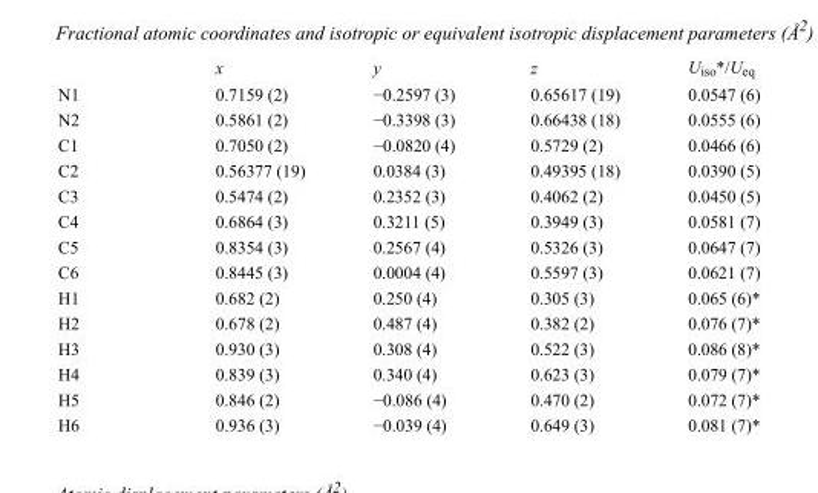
<table><thead><tr><td></td><td>x</td><td>y</td><td>z</td><td>U<sub>iso</sub>*/U<sub>eq</sub></td></tr></thead><tbody><tr><td>N1</td><td>0.7159 (2)</td><td>−0.2597 (3)</td><td>0.65617 (19)</td><td>0.0547 (6)</td></tr><tr><td>N2</td><td>0.5861 (2)</td><td>−0.3398 (3)</td><td>0.66438 (18)</td><td>0.0555 (6)</td></tr><tr><td>C1</td><td>0.7050 (2)</td><td>−0.0820 (4)</td><td>0.5729 (2)</td><td>0.0466 (6)</td></tr><tr><td>C2</td><td>0.56377 (19)</td><td>0.0384 (3)</td><td>0.49395 (18)</td><td>0.0390 (5)</td></tr><tr><td>C3</td><td>0.5474 (2)</td><td>0.2352 (3)</td><td>0.4062 (2)</td><td>0.0450 (5)</td></tr><tr><td>C4</td><td>0.6864 (3)</td><td>0.3211 (5)</td><td>0.3949 (3)</td><td>0.0581 (7)</td></tr><tr><td>C5</td><td>0.8354 (3)</td><td>0.2567 (4)</td><td>0.5326 (3)</td><td>0.0647 (7)</td></tr><tr><td>C6</td><td>0.8445 (3)</td><td>0.0004 (4)</td><td>0.5597 (3)</td><td>0.0621 (7)</td></tr><tr><td>H1</td><td>0.682 (2)</td><td>0.250 (4)</td><td>0.305 (3)</td><td>0.065 (6)*</td></tr><tr><td>H2</td><td>0.678 (2)</td><td>0.487 (4)</td><td>0.382 (2)</td><td>0.076 (7)*</td></tr><tr><td>H3</td><td>0.930 (3)</td><td>0.308 (4)</td><td>0.522 (3)</td><td>0.086 (8)*</td></tr><tr><td>H4</td><td>0.839 (3)</td><td>0.340 (4)</td><td>0.623 (3)</td><td>0.079 (7)*</td></tr><tr><td>H5</td><td>0.846 (2)</td><td>−0.086 (4)</td><td>0.470 (2)</td><td>0.072 (7)*</td></tr><tr><td>H6</td><td>0.936 (3)</td><td>−0.039 (4)</td><td>0.649 (3)</td><td>0.081 (7)*</td></tr></tbody></table>